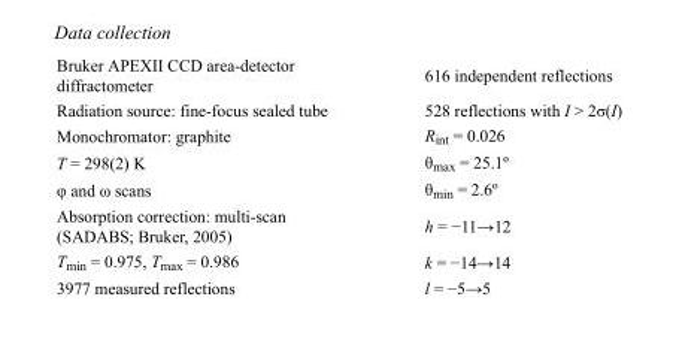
<table><tbody><tr><td>Bruker APEXII CCD area-detector diffractometer</td><td>616 independent reflections</td></tr><tr><td>Radiation source: fine-focus sealed tube</td><td>528 reflections with I &gt; 2σ(I)</td></tr><tr><td>Monochromator: graphite</td><td>R<sub>int</sub> = 0.026</td></tr><tr><td>T = 298(2) K</td><td>θ<sub>max</sub> = 25.1º</td></tr><tr><td>φ and ω scans</td><td>θ<sub>min</sub> = 2.6º</td></tr><tr><td>Absorption correction: multi-scan (SADABS; Bruker, 2005)</td><td>h = −11→12</td></tr><tr><td>T<sub>min</sub> = 0.975, T<sub>max</sub> = 0.986</td><td>k = −14→14</td></tr><tr><td>3977 measured reflections</td><td>l = −5→5</td></tr></tbody></table>